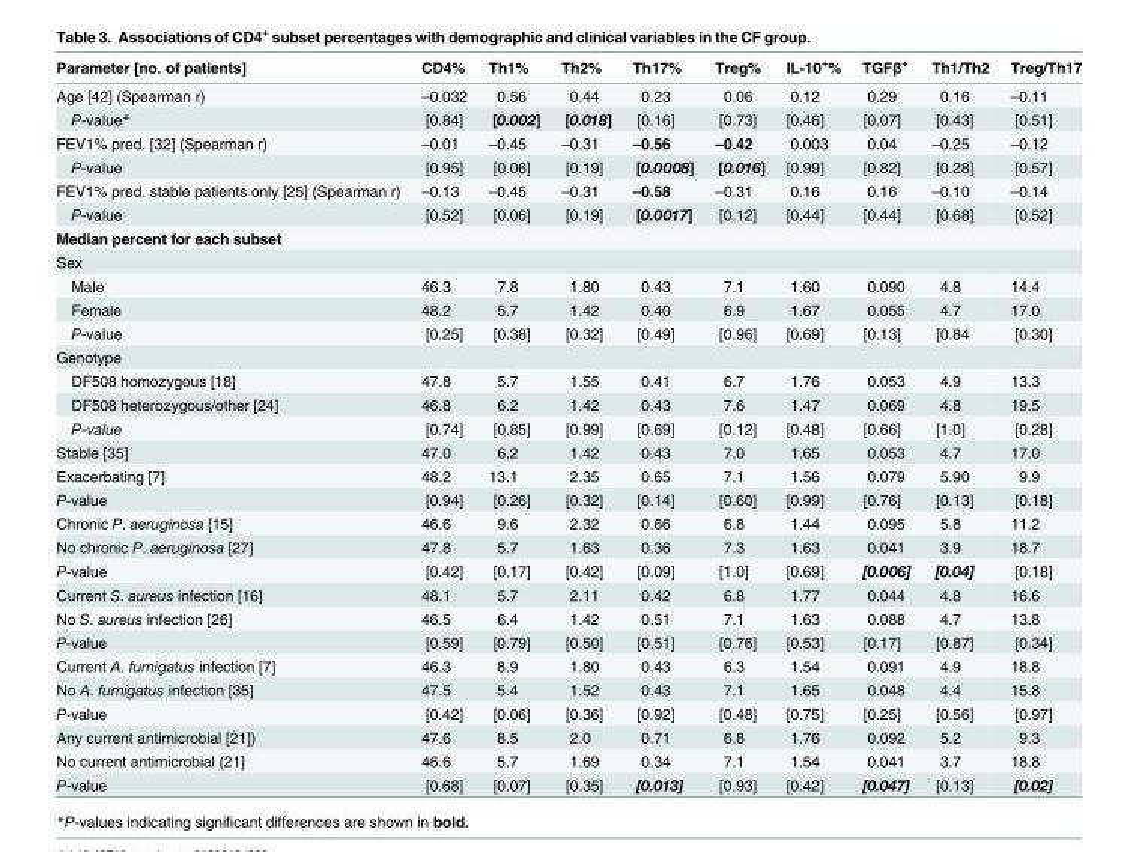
<table><thead><tr><td>Parameter [no. of patients]</td><td>CD4%</td><td>Th1%</td><td>Th2%</td><td>Th17%</td><td>Treg%</td><td>IL-10<sup>+</sup>%</td><td>TGFβ<sup>+</sup></td><td>Th1/Th2</td><td>Treg/Th17</td></tr></thead><tbody><tr><td>Age [42] (Spearman r)</td><td>–0.032</td><td>0.56</td><td>0.44</td><td>0.23</td><td>0.06</td><td>0.12</td><td>0.29</td><td>0.16</td><td>–0.11</td></tr><tr><td>P-value*</td><td>[0.84]</td><td>[0.002]</td><td>[0.018]</td><td>[0.16]</td><td>[0.73]</td><td>[0.46]</td><td>[0.07]</td><td>[0.43]</td><td>[0.51]</td></tr><tr><td>FEV1% pred. [32] (Spearman r)</td><td>–0.01</td><td>–0.45</td><td>–0.31</td><td>–0.56</td><td>–0.42</td><td>0.003</td><td>0.04</td><td>–0.25</td><td>–0.12</td></tr><tr><td>P-value</td><td>[0.95]</td><td>[0.06]</td><td>[0.19]</td><td>[0.0008]</td><td>[0.016]</td><td>[0.99]</td><td>[0.82]</td><td>[0.28]</td><td>[0.57]</td></tr><tr><td>FEV1% pred. stable patients only [25] (Spearman r)</td><td>–0.13</td><td>–0.45</td><td>–0.31</td><td>–0.58</td><td>–0.31</td><td>0.16</td><td>0.16</td><td>–0.10</td><td>–0.14</td></tr><tr><td>P-value</td><td>[0.52]</td><td>[0.06]</td><td>[0.19]</td><td>[0.0017]</td><td>[0.12]</td><td>[0.44]</td><td>[0.44]</td><td>[0.68]</td><td>[0.52]</td></tr><tr><td colspan="10">Median percent for each subset</td></tr><tr><td colspan="10">Sex</td></tr><tr><td>Male</td><td>46.3</td><td>7.8</td><td>1.80</td><td>0.43</td><td>7.1</td><td>1.60</td><td>0.090</td><td>4.8</td><td>14.4</td></tr><tr><td>Female</td><td>48.2</td><td>5.7</td><td>1.42</td><td>0.40</td><td>6.9</td><td>1.67</td><td>0.055</td><td>4.7</td><td>17.0</td></tr><tr><td>P-value</td><td>[0.25]</td><td>[0.38]</td><td>[0.32]</td><td>[0.49]</td><td>[0.96]</td><td>[0.69]</td><td>[0.13]</td><td>[0.84</td><td>[0.30]</td></tr><tr><td colspan="10">Genotype</td></tr><tr><td>DF508 homozygous [18]</td><td>47.8</td><td>5.7</td><td>1.55</td><td>0.41</td><td>6.7</td><td>1.76</td><td>0.053</td><td>4.9</td><td>13.3</td></tr><tr><td>DF508 heterozygous/other [24]</td><td>46.8</td><td>6.2</td><td>1.42</td><td>0.43</td><td>7.6</td><td>1.47</td><td>0.069</td><td>4.8</td><td>19.5</td></tr><tr><td>P-value</td><td>[0.74]</td><td>[0.85]</td><td>[0.99]</td><td>[0.69]</td><td>[0.12]</td><td>[0.48]</td><td>[0.66]</td><td>[1.0]</td><td>[0.28]</td></tr><tr><td>Stable [35]</td><td>47.0</td><td>6.2</td><td>1.42</td><td>0.43</td><td>7.0</td><td>1.65</td><td>0.053</td><td>4.7</td><td>17.0</td></tr><tr><td>Exacerbating [7]</td><td>48.2</td><td>13.1</td><td>2.35</td><td>0.65</td><td>7.1</td><td>1.56</td><td>0.079</td><td>5.90</td><td>9.9</td></tr><tr><td>P-value</td><td>[0.94]</td><td>[0.26]</td><td>[0.32]</td><td>[0.14]</td><td>[0.60]</td><td>[0.99]</td><td>[0.76]</td><td>[0.13]</td><td>[0.18]</td></tr><tr><td>Chronic P. aeruginosa [15]</td><td>46.6</td><td>9.6</td><td>2.32</td><td>0.66</td><td>6.8</td><td>1.44</td><td>0.095</td><td>5.8</td><td>11.2</td></tr><tr><td>No chronic P. aeruginosa [27]</td><td>47.8</td><td>5.7</td><td>1.63</td><td>0.36</td><td>7.3</td><td>1.63</td><td>0.041</td><td>3.9</td><td>18.7</td></tr><tr><td>P-value</td><td>[0.42]</td><td>[0.17]</td><td>[0.42]</td><td>[0.09]</td><td>[1.0]</td><td>[0.69]</td><td>[0.006]</td><td>[0.04]</td><td>[0.18]</td></tr><tr><td>Current S. aureus infection [16]</td><td>48.1</td><td>5.7</td><td>2.11</td><td>0.42</td><td>6.8</td><td>1.77</td><td>0.044</td><td>4.8</td><td>16.6</td></tr><tr><td>No S. aureus infection [26]</td><td>46.5</td><td>6.4</td><td>1.42</td><td>0.51</td><td>7.1</td><td>1.63</td><td>0.088</td><td>4.7</td><td>13.8</td></tr><tr><td>P-value</td><td>[0.59]</td><td>[0.79]</td><td>[0.50]</td><td>[0.51]</td><td>[0.76]</td><td>[0.53]</td><td>[0.17]</td><td>[0.87]</td><td>[0.34]</td></tr><tr><td>Current A. fumigatus infection [7]</td><td>46.3</td><td>8.9</td><td>1.80</td><td>0.43</td><td>6.3</td><td>1.54</td><td>0.091</td><td>4.9</td><td>18.8</td></tr><tr><td>No A. fumigatus infection [35]</td><td>47.5</td><td>5.4</td><td>1.52</td><td>0.43</td><td>7.1</td><td>1.65</td><td>0.048</td><td>4.4</td><td>15.8</td></tr><tr><td>P-value</td><td>[0.42]</td><td>[0.06]</td><td>[0.36]</td><td>[0.92]</td><td>[0.48]</td><td>[0.75]</td><td>[0.25]</td><td>[0.56]</td><td>[0.97]</td></tr><tr><td>Any current antimicrobial [21])</td><td>47.6</td><td>8.5</td><td>2.0</td><td>0.71</td><td>6.8</td><td>1.76</td><td>0.092</td><td>5.2</td><td>9.3</td></tr><tr><td>No current antimicrobial (21]</td><td>46.6</td><td>5.7</td><td>1.69</td><td>0.34</td><td>7.1</td><td>1.54</td><td>0.041</td><td>3.7</td><td>18.8</td></tr><tr><td>P-value</td><td>[0.68]</td><td>[0.07]</td><td>[0.35]</td><td>[0.013]</td><td>[0.93]</td><td>[0.42]</td><td>[0.047]</td><td>[0.13]</td><td>[0.02]</td></tr></tbody></table>